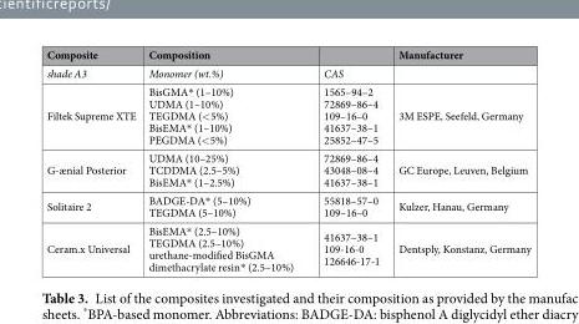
<table><thead><tr><td>Composite</td><td>Composition</td><td></td><td>Manufacturer</td></tr></thead><tbody><tr><td>shade A3</td><td>Monomer (wt.%)</td><td>CAS</td><td></td></tr><tr><td>Filtek Supreme XTE</td><td>BisGMA* (1–10%) UDMA (1–10%) TEGDMA (&lt;5%) BisEMA* (1–10%) PEGDMA (&lt;5%)</td><td>1565–94–2 72869–86–4 109–16–0 41637–38–1 25852–47–5</td><td>3M ESPE, Seefeld, Germany</td></tr><tr><td>G-ænial Posterior</td><td>UDMA (10–25%) TCDDMA (2.5–5%) BisEMA* (1–2.5%)</td><td>72869–86–4 43048–08–4 41637–38–1</td><td>GC Europe, Leuven, Belgium</td></tr><tr><td>Solitaire 2</td><td>BADGE-DA* (5–10%) TEGDMA (5–10%)</td><td>55818–57–0 109–16–0</td><td>Kulzer, Hanau, Germany</td></tr><tr><td>Ceram.x Universal</td><td>BisEMA* (2.5–10%) TEGDMA (2.5–10%) urethane-modified BisGMA dimethacrylate resin* (2.5–10%)</td><td>41637–38–1 109-16-0 126646-17-1</td><td>Dentsply, Konstanz, Germany</td></tr></tbody></table>